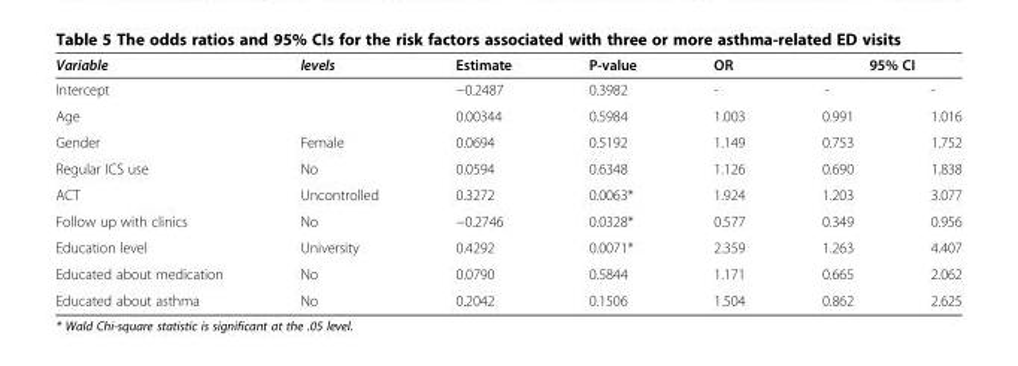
<table><thead><tr><td rowspan="2">Variable Intercept</td><td rowspan="2">levels</td><td rowspan="2">Estimate −0.2487</td><td rowspan="2">P-value 0.3982</td><td rowspan="2">OR -</td><td colspan="2">95% CI</td></tr><tr><td>-</td><td>-</td></tr></thead><tbody><tr><td>Age</td><td></td><td>0.00344</td><td>0.5984</td><td>1.003</td><td>0.991</td><td>1.016</td></tr><tr><td>Gender</td><td>Female</td><td>0.0694</td><td>0.5192</td><td>1.149</td><td>0.753</td><td>1.752</td></tr><tr><td>Regular ICS use</td><td>No</td><td>0.0594</td><td>0.6348</td><td>1.126</td><td>0.690</td><td>1.838</td></tr><tr><td>ACT</td><td>Uncontrolled</td><td>0.3272</td><td>0.0063*</td><td>1.924</td><td>1.203</td><td>3.077</td></tr><tr><td>Follow up with clinics</td><td>No</td><td>−0.2746</td><td>0.0328*</td><td>0.577</td><td>0.349</td><td>0.956</td></tr><tr><td>Education level</td><td>University</td><td>0.4292</td><td>0.0071*</td><td>2.359</td><td>1.263</td><td>4.407</td></tr><tr><td>Educated about medication</td><td>No</td><td>0.0790</td><td>0.5844</td><td>1.171</td><td>0.665</td><td>2.062</td></tr><tr><td>Educated about asthma</td><td>No</td><td>0.2042</td><td>0.1506</td><td>1.504</td><td>0.862</td><td>2.625</td></tr></tbody></table>